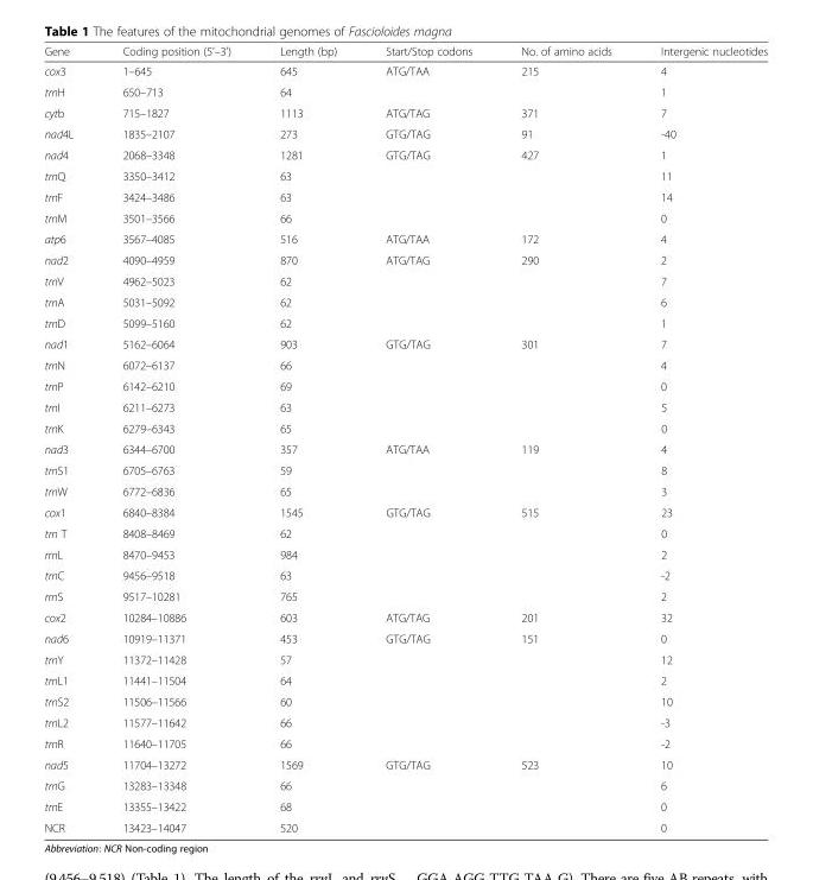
<table><thead><tr><td>Gene</td><td>Coding position (5’–3’)</td><td>Length (bp)</td><td>Start/Stop codons</td><td>No. of amino acids</td><td>Intergenic nucleotides</td></tr></thead><tbody><tr><td>cox3</td><td>1–645</td><td>645</td><td>ATG/TAA</td><td>215</td><td>4</td></tr><tr><td>trnH</td><td>650–713</td><td>64</td><td></td><td></td><td>1</td></tr><tr><td>cytb</td><td>715–1827</td><td>1113</td><td>ATG/TAG</td><td>371</td><td>7</td></tr><tr><td>nad4L</td><td>1835–2107</td><td>273</td><td>GTG/TAG</td><td>91</td><td>-40</td></tr><tr><td>nad4</td><td>2068–3348</td><td>1281</td><td>GTG/TAG</td><td>427</td><td>1</td></tr><tr><td>trnQ</td><td>3350–3412</td><td>63</td><td></td><td></td><td>11</td></tr><tr><td>trnF</td><td>3424–3486</td><td>63</td><td></td><td></td><td>14</td></tr><tr><td>trnM</td><td>3501–3566</td><td>66</td><td></td><td></td><td>0</td></tr><tr><td>atp6</td><td>3567–4085</td><td>516</td><td>ATG/TAA</td><td>172</td><td>4</td></tr><tr><td>nad2</td><td>4090–4959</td><td>870</td><td>ATG/TAG</td><td>290</td><td>2</td></tr><tr><td>trnV</td><td>4962–5023</td><td>62</td><td></td><td></td><td>7</td></tr><tr><td>trnA</td><td>5031–5092</td><td>62</td><td></td><td></td><td>6</td></tr><tr><td>trnD</td><td>5099–5160</td><td>62</td><td></td><td></td><td>1</td></tr><tr><td>nad1</td><td>5162–6064</td><td>903</td><td>GTG/TAG</td><td>301</td><td>7</td></tr><tr><td>trnN</td><td>6072–6137</td><td>66</td><td></td><td></td><td>4</td></tr><tr><td>trnP</td><td>6142–6210</td><td>69</td><td></td><td></td><td>0</td></tr><tr><td>trnI</td><td>6211–6273</td><td>63</td><td></td><td></td><td>5</td></tr><tr><td>trnK</td><td>6279–6343</td><td>65</td><td></td><td></td><td>0</td></tr><tr><td>nad3</td><td>6344–6700</td><td>357</td><td>ATG/TAA</td><td>119</td><td>4</td></tr><tr><td>trnS1</td><td>6705–6763</td><td>59</td><td></td><td></td><td>8</td></tr><tr><td>trnW</td><td>6772–6836</td><td>65</td><td></td><td></td><td>3</td></tr><tr><td>cox1</td><td>6840–8384</td><td>1545</td><td>GTG/TAG</td><td>515</td><td>23</td></tr><tr><td>trn T</td><td>8408–8469</td><td>62</td><td></td><td></td><td>0</td></tr><tr><td>rrnL</td><td>8470–9453</td><td>984</td><td></td><td></td><td>2</td></tr><tr><td>trnC</td><td>9456–9518</td><td>63</td><td></td><td></td><td>-2</td></tr><tr><td>rrnS</td><td>9517–10281</td><td>765</td><td></td><td></td><td>2</td></tr><tr><td>cox2</td><td>10284–10886</td><td>603</td><td>ATG/TAG</td><td>201</td><td>32</td></tr><tr><td>nad6</td><td>10919–11371</td><td>453</td><td>GTG/TAG</td><td>151</td><td>0</td></tr><tr><td>trnY</td><td>11372–11428</td><td>57</td><td></td><td></td><td>12</td></tr><tr><td>trnL1</td><td>11441–11504</td><td>64</td><td></td><td></td><td>2</td></tr><tr><td>trnS2</td><td>11506–11566</td><td>60</td><td></td><td></td><td>10</td></tr><tr><td>trnL2</td><td>11577–11642</td><td>66</td><td></td><td></td><td>-3</td></tr><tr><td>trnR</td><td>11640–11705</td><td>66</td><td></td><td></td><td>-2</td></tr><tr><td>nad5</td><td>11704–13272</td><td>1569</td><td>GTG/TAG</td><td>523</td><td>10</td></tr><tr><td>trnG</td><td>13283–13348</td><td>66</td><td></td><td></td><td>6</td></tr><tr><td>trnE</td><td>13355–13422</td><td>68</td><td></td><td></td><td>0</td></tr><tr><td>NCR</td><td>13423–14047</td><td>520</td><td></td><td></td><td>0</td></tr></tbody></table>